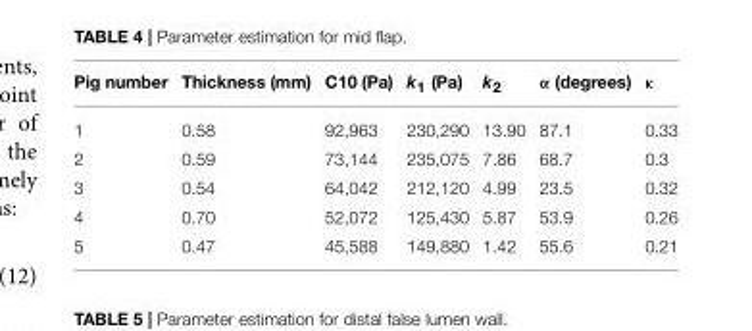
<table><thead><tr><td>Pig number</td><td>Thickness (mm)</td><td>C10 (Pa)</td><td>k<sub>1</sub> (Pa)</td><td>k<sub>2</sub></td><td>α (degrees)</td><td>κ</td></tr></thead><tbody><tr><td>1</td><td>0.58</td><td>92,963</td><td>230,290</td><td>13.90</td><td>87.1</td><td>0.33</td></tr><tr><td>2</td><td>0.59</td><td>73,144</td><td>235,075</td><td>7.86</td><td>68.7</td><td>0.3</td></tr><tr><td>3</td><td>0.54</td><td>64,042</td><td>212,120</td><td>4.99</td><td>23.5</td><td>0.32</td></tr><tr><td>4</td><td>0.70</td><td>52,072</td><td>125,430</td><td>5.87</td><td>53.9</td><td>0.26</td></tr><tr><td>5</td><td>0.47</td><td>45,588</td><td>149,880</td><td>1.42</td><td>55.6</td><td>0.21</td></tr></tbody></table>